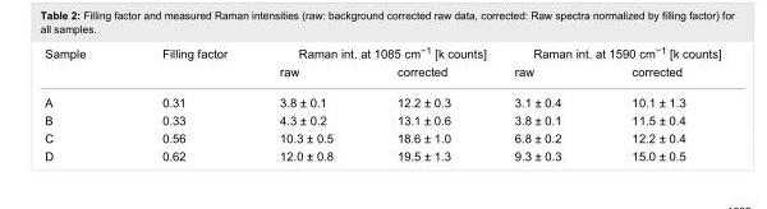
<table><tbody><tr><td rowspan="2">Sample</td><td rowspan="2">Filling factor</td><td colspan="2">Raman int. at 1085 cm<sup>−1</sup> [k counts]</td><td colspan="2">Raman int. at 1590 cm<sup>−1</sup> [k counts]</td></tr><tr><td>raw</td><td>corrected</td><td>raw</td><td>corrected</td></tr><tr><td>A</td><td>0.31</td><td>3.8 ± 0.1</td><td>12.2 ± 0.3</td><td>3.1 ± 0.4</td><td>10.1 ± 1.3</td></tr><tr><td>B</td><td>0.33</td><td>4.3 ± 0.2</td><td>13.1 ± 0.6</td><td>3.8 ± 0.1</td><td>11.5 ± 0.4</td></tr><tr><td>C</td><td>0.56</td><td>10.3 ± 0.5</td><td>18.6 ± 1.0</td><td>6.8 ± 0.2</td><td>12.2 ± 0.4</td></tr><tr><td>D</td><td>0.62</td><td>12.0 ± 0.8</td><td>19.5 ± 1.3</td><td>9.3 ± 0.3</td><td>15.0 ± 0.5</td></tr></tbody></table>